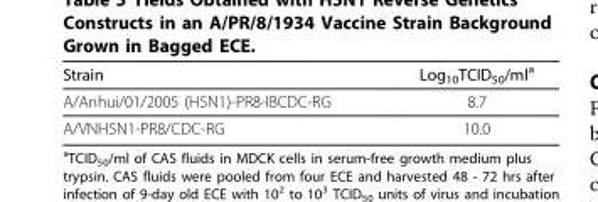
<table><thead><tr><td>Strain</td><td>Log<sub>10</sub>TCID<sub>50</sub>/ml<sup>a</sup></td></tr></thead><tbody><tr><td>A/Anhui/01/2005 (H5N1)-PR8-IBCDC-RG</td><td>8.7</td></tr><tr><td>A/VNH5N1-PR8/CDC-RG</td><td>10.0</td></tr></tbody></table>